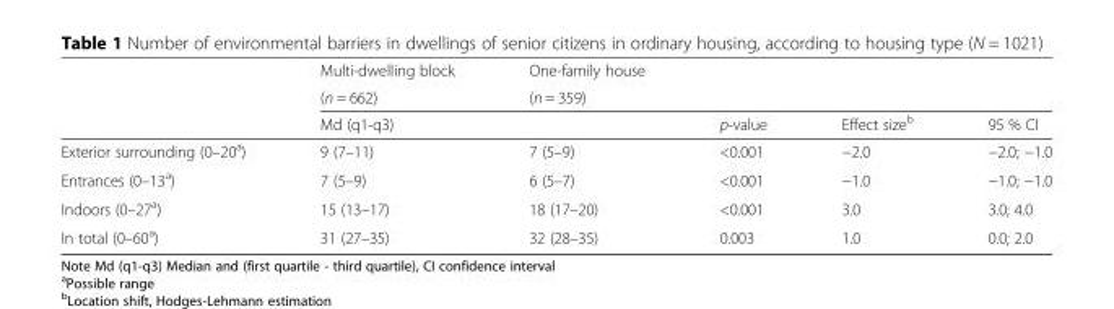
<table><thead><tr><td rowspan="3"></td><td rowspan="2">Multi-dwelling block (n = 662)</td><td rowspan="2">One-family house (n = 359)</td><td rowspan="3">p-value</td><td rowspan="3">Effect size<sup>b</sup></td><td rowspan="3">95 % CI</td></tr><tr></tr><tr><td colspan="2">Md (q1-q3)</td></tr></thead><tbody><tr><td>Exterior surrounding (0–20<sup>a</sup>)</td><td>9 (7–11)</td><td>7 (5–9)</td><td>&lt;0.001</td><td>−2.0</td><td>−2.0; −1.0</td></tr><tr><td>Entrances (0–13<sup>a</sup>)</td><td>7 (5–9)</td><td>6 (5–7)</td><td>&lt;0.001</td><td>−1.0</td><td>−1.0; −1.0</td></tr><tr><td>Indoors (0–27<sup>a</sup>)</td><td>15 (13–17)</td><td>18 (17–20)</td><td>&lt;0.001</td><td>3.0</td><td>3.0; 4.0</td></tr><tr><td>In total (0–60<sup>a</sup>)</td><td>31 (27–35)</td><td>32 (28–35)</td><td>0.003</td><td>1.0</td><td>0.0; 2.0</td></tr></tbody></table>